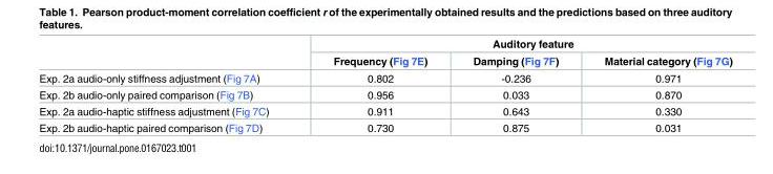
<table><thead><tr><td rowspan="2"></td><td colspan="3">Auditory feature</td></tr><tr><td>Frequency (Fig 7E)</td><td>Damping (Fig 7F)</td><td>Material category (Fig 7G)</td></tr></thead><tbody><tr><td>Exp. 2a audio-only stiffness adjustment (Fig 7A)</td><td>0.802</td><td>-0.236</td><td>0.971</td></tr><tr><td>Exp. 2b audio-only paired comparison (Fig 7B)</td><td>0.956</td><td>0.033</td><td>0.870</td></tr><tr><td>Exp. 2a audio-haptic stiffness adjustment (Fig 7C)</td><td>0.911</td><td>0.643</td><td>0.330</td></tr><tr><td>Exp. 2b audio-haptic paired comparison (Fig 7D)</td><td>0.730</td><td>0.875</td><td>0.031</td></tr></tbody></table>